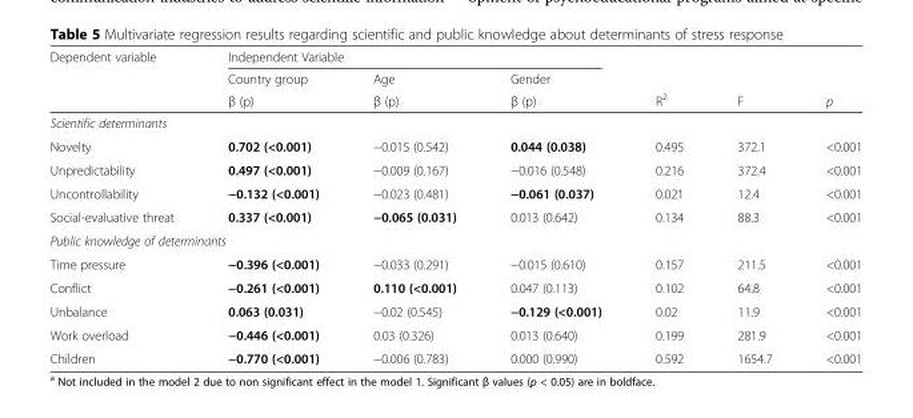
<table><thead><tr><td rowspan="3">Dependent variable</td><td colspan="3">Independent Variable</td><td rowspan="3">R<sup>2</sup></td><td rowspan="3">F</td><td rowspan="3">p</td></tr><tr><td rowspan="2">Country group β (p)</td><td rowspan="2">Age β (p)</td><td rowspan="2">Gender β (p)</td></tr><tr></tr></thead><tbody><tr><td colspan="7">Scientific determinants</td></tr><tr><td>Novelty</td><td>0.702 (&lt;0.001)</td><td>−0.015 (0.542)</td><td>0.044 (0.038)</td><td>0.495</td><td>372.1</td><td>&lt;0.001</td></tr><tr><td>Unpredictability</td><td>0.497 (&lt;0.001)</td><td>−0.009 (0.167)</td><td>−0.016 (0.548)</td><td>0.216</td><td>372.4</td><td>&lt;0.001</td></tr><tr><td>Uncontrollability</td><td>−0.132 (&lt;0.001)</td><td>−0.023 (0.481)</td><td>−0.061 (0.037)</td><td>0.021</td><td>12.4</td><td>&lt;0.001</td></tr><tr><td>Social-evaluative threat</td><td>0.337 (&lt;0.001)</td><td>−0.065 (0.031)</td><td>0.013 (0.642)</td><td>0.134</td><td>88.3</td><td>&lt;0.001</td></tr><tr><td colspan="7">Public knowledge of determinants</td></tr><tr><td>Time pressure</td><td>−0.396 (&lt;0.001)</td><td>−0.033 (0.291)</td><td>−0.015 (0.610)</td><td>0.157</td><td>211.5</td><td>&lt;0.001</td></tr><tr><td>Conflict</td><td>−0.261 (&lt;0.001)</td><td>0.110 (&lt;0.001)</td><td>0.047 (0.113)</td><td>0.102</td><td>64.8</td><td>&lt;0.001</td></tr><tr><td>Unbalance</td><td>0.063 (0.031)</td><td>−0.02 (0.545)</td><td>−0.129 (&lt;0.001)</td><td>0.02</td><td>11.9</td><td>&lt;0.001</td></tr><tr><td>Work overload</td><td>−0.446 (&lt;0.001)</td><td>0.03 (0.326)</td><td>0.013 (0.640)</td><td>0.199</td><td>281.9</td><td>&lt;0.001</td></tr><tr><td>Children</td><td>−0.770 (&lt;0.001)</td><td>−0.006 (0.783)</td><td>0.000 (0.990)</td><td>0.592</td><td>1654.7</td><td>&lt;0.001</td></tr></tbody></table>